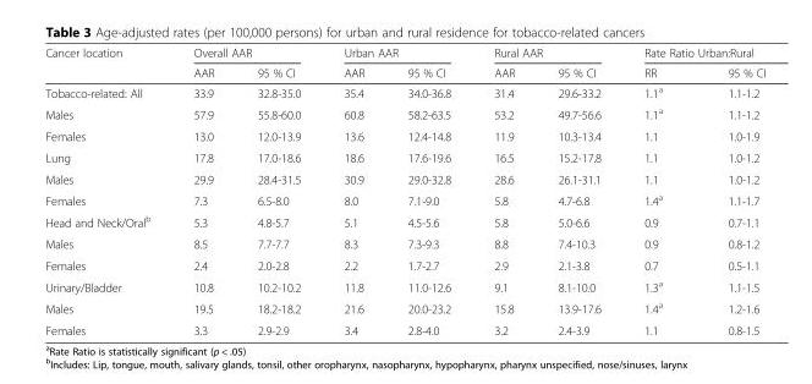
<table><thead><tr><td rowspan="2">Cancer location</td><td colspan="2">Overall AAR</td><td colspan="2">Urban AAR</td><td colspan="2">Rural AAR</td><td colspan="2">Rate Ratio Urban:Rural</td></tr><tr><td>AAR</td><td>95 % CI</td><td>AAR</td><td>95 % CI</td><td>AAR</td><td>95 % CI</td><td>RR</td><td>95 % CI</td></tr></thead><tbody><tr><td>Tobacco-related: All</td><td>33.9</td><td>32.8-35.0</td><td>35.4</td><td>34.0-36.8</td><td>31.4</td><td>29.6-33.2</td><td>1.1<sup>a</sup></td><td>1.1-1.2</td></tr><tr><td>Males</td><td>57.9</td><td>55.8-60.0</td><td>60.8</td><td>58.2-63.5</td><td>53.2</td><td>49.7-56.6</td><td>1.1<sup>a</sup></td><td>1.1-1.2</td></tr><tr><td>Females</td><td>13.0</td><td>12.0-13.9</td><td>13.6</td><td>12.4-14.8</td><td>11.9</td><td>10.3-13.4</td><td>1.1</td><td>1.0-1.9</td></tr><tr><td>Lung</td><td>17.8</td><td>17.0-18.6</td><td>18.6</td><td>17.6-19.6</td><td>16.5</td><td>15.2-17.8</td><td>1.1</td><td>1.0-1.2</td></tr><tr><td>Males</td><td>29.9</td><td>28.4-31.5</td><td>30.9</td><td>29.0-32.8</td><td>28.6</td><td>26.1-31.1</td><td>1.1</td><td>1.0-1.2</td></tr><tr><td>Females</td><td>7.3</td><td>6.5-8.0</td><td>8.0</td><td>7.1-9.0</td><td>5.8</td><td>4.7-6.8</td><td>1.4<sup>a</sup></td><td>1.1-1.7</td></tr><tr><td>Head and Neck/Oral<sup>b</sup></td><td>5.3</td><td>4.8-5.7</td><td>5.1</td><td>4.5-5.6</td><td>5.8</td><td>5.0-6.6</td><td>0.9</td><td>0.7-1.1</td></tr><tr><td>Males</td><td>8.5</td><td>7.7-7.7</td><td>8.3</td><td>7.3-9.3</td><td>8.8</td><td>7.4-10.3</td><td>0.9</td><td>0.8-1.2</td></tr><tr><td>Females</td><td>2.4</td><td>2.0-2.8</td><td>2.2</td><td>1.7-2.7</td><td>2.9</td><td>2.1-3.8</td><td>0.7</td><td>0.5-1.1</td></tr><tr><td>Urinary/Bladder</td><td>10.8</td><td>10.2-10.2</td><td>11.8</td><td>11.0-12.6</td><td>9.1</td><td>8.1-10.0</td><td>1.3<sup>a</sup></td><td>1.1-1.5</td></tr><tr><td>Males</td><td>19.5</td><td>18.2-18.2</td><td>21.6</td><td>20.0-23.2</td><td>15.8</td><td>13.9-17.6</td><td>1.4<sup>a</sup></td><td>1.2-1.6</td></tr><tr><td>Females</td><td>3.3</td><td>2.9-2.9</td><td>3.4</td><td>2.8-4.0</td><td>3.2</td><td>2.4-3.9</td><td>1.1</td><td>0.8-1.5</td></tr></tbody></table>